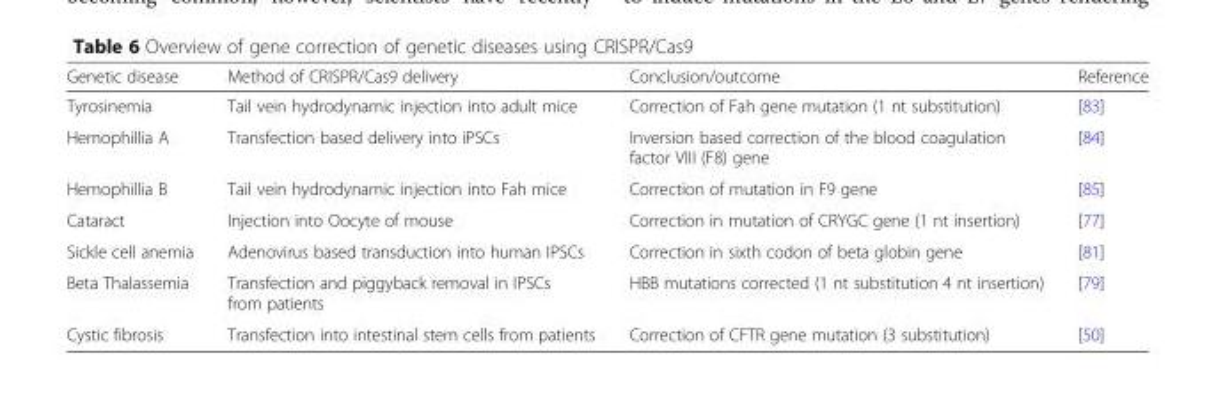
<table><thead><tr><td>Genetic disease</td><td>Method of CRISPR/Cas9 delivery</td><td>Conclusion/outcome</td><td>Reference</td></tr></thead><tbody><tr><td>Tyrosinemia</td><td>Tail vein hydrodynamic injection into adult mice</td><td>Correction of Fah gene mutation (1 nt substitution)</td><td>[83]</td></tr><tr><td>Hemophillia A</td><td>Transfection based delivery into iPSCs</td><td>Inversion based correction of the blood coagulation factor VIII (F8) gene</td><td>[84]</td></tr><tr><td>Hemophillia B</td><td>Tail vein hydrodynamic injection into Fah mice</td><td>Correction of mutation in F9 gene</td><td>[85]</td></tr><tr><td>Cataract</td><td>Injection into Oocyte of mouse</td><td>Correction in mutation of CRYGC gene (1 nt insertion)</td><td>[77]</td></tr><tr><td>Sickle cell anemia</td><td>Adenovirus based transduction into human IPSCs</td><td>Correction in sixth codon of beta globin gene</td><td>[81]</td></tr><tr><td>Beta Thalassemia</td><td>Transfection and piggyback removal in IPSCs from patients</td><td>HBB mutations corrected (1 nt substitution 4 nt insertion)</td><td>[79]</td></tr><tr><td>Cystic fibrosis</td><td>Transfection into intestinal stem cells from patients</td><td>Correction of CFTR gene mutation (3 substitution)</td><td>[50]</td></tr></tbody></table>